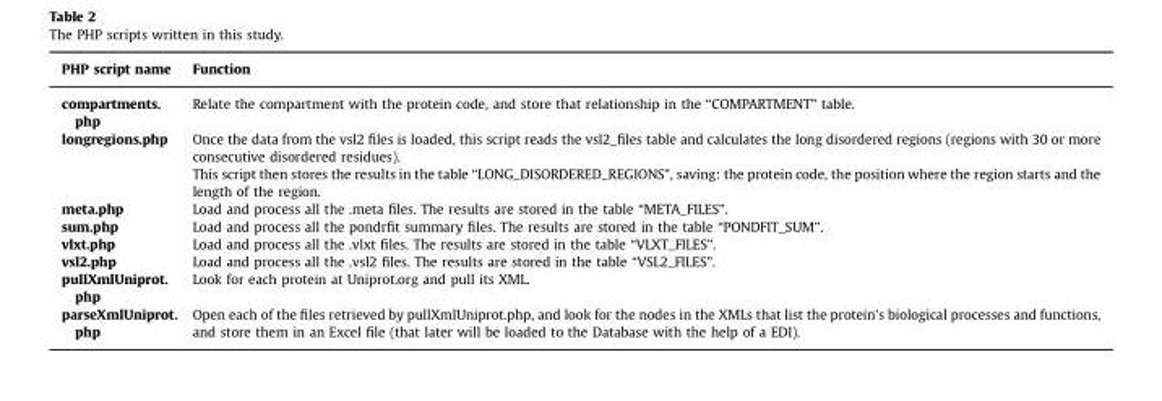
<table><thead><tr><td>PHP script name</td><td>Function</td></tr></thead><tbody><tr><td>compartments. php</td><td>Relate the compartment with the protein code, and store that relationship in the “COMPARTMENT” table.</td></tr><tr><td rowspan="2">longregions.php</td><td>Once the data from the vsl2 files is loaded, this script reads the vsl2_files table and calculates the long disordered regions (regions with 30 or more consecutive disordered residues).</td></tr><tr><td>This script then stores the results in the table “LONG_DISORDERED_REGIONS”, saving: the protein code, the position where the region starts and the length of the region.</td></tr><tr><td>meta.php</td><td>Load and process all the .meta files. The results are stored in the table “META_FILES”.</td></tr><tr><td>sum.php</td><td>Load and process all the pondrfit summary files. The results are stored in the table “PONDFIT_SUM”.</td></tr><tr><td>vlxt.php</td><td>Load and process all the .vlxt files. The results are stored in the table “VLXT_FILES”.</td></tr><tr><td>vsl2.php</td><td>Load and process all the .vsl2 files. The results are stored in the table “VSL2_FILES”.</td></tr><tr><td>pullXmlUniprot. php</td><td>Look for each protein at Uniprot.org and pull its XML.</td></tr><tr><td>parseXmlUniprot. php</td><td>Open each of the files retrieved by pullXmlUniprot.php, and look for the nodes in the XMLs that list the protein&#x27;s biological processes and functions, and store them in an Excel file (that later will be loaded to the Database with the help of a EDI).</td></tr></tbody></table>